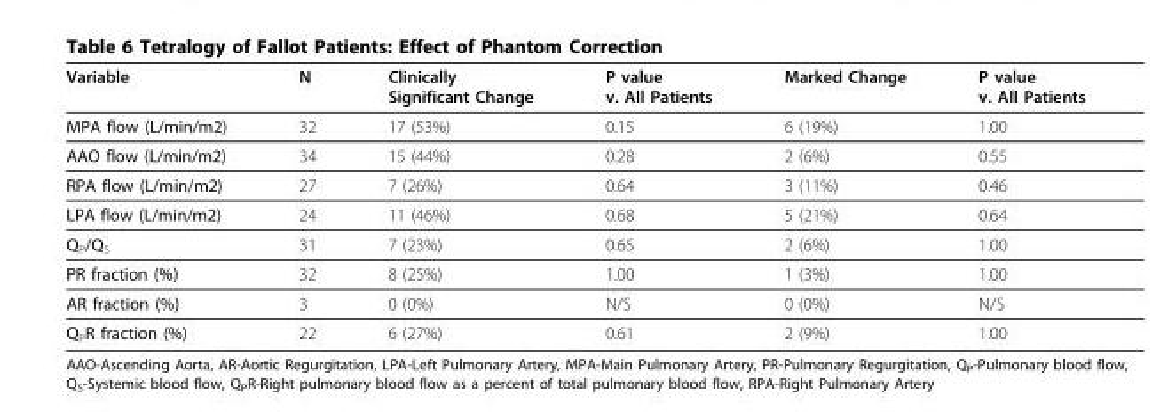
<table><thead><tr><td>Variable</td><td>N</td><td>Clinically Significant Change</td><td>P value v. All Patients</td><td>Marked Change</td><td>P value v. All Patients</td></tr></thead><tbody><tr><td>MPA flow (L/min/m2)</td><td>32</td><td>17 (53%)</td><td>0.15</td><td>6 (19%)</td><td>1.00</td></tr><tr><td>AAO flow (L/min/m2)</td><td>34</td><td>15 (44%)</td><td>0.28</td><td>2 (6%)</td><td>0.55</td></tr><tr><td>RPA flow (L/min/m2)</td><td>27</td><td>7 (26%)</td><td>0.64</td><td>3 (11%)</td><td>0.46</td></tr><tr><td>LPA flow (L/min/m2)</td><td>24</td><td>11 (46%)</td><td>0.68</td><td>5 (21%)</td><td>0.64</td></tr><tr><td>Q<sub>P</sub>/Q<sub>S</sub></td><td>31</td><td>7 (23%)</td><td>0.65</td><td>2 (6%)</td><td>1.00</td></tr><tr><td>PR fraction (%)</td><td>32</td><td>8 (25%)</td><td>1.00</td><td>1 (3%)</td><td>1.00</td></tr><tr><td>AR fraction (%)</td><td>3</td><td>0 (0%)</td><td>N/S</td><td>0 (0%)</td><td>N/S</td></tr><tr><td>Q<sub>P</sub>R fraction (%)</td><td>22</td><td>6 (27%)</td><td>0.61</td><td>2 (9%)</td><td>1.00</td></tr></tbody></table>